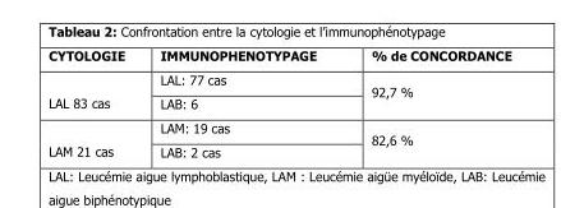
<table><thead><tr><td>CYTOLOGIE</td><td>IMMUNOPHENOTYPAGE</td><td>% de CONCORDANCE</td></tr></thead><tbody><tr><td rowspan="2">LAL 83 cas</td><td>LAL: 77 cas</td><td rowspan="2">92,7 %</td></tr><tr><td>LAB: 6</td></tr><tr><td rowspan="2">LAM 21 cas</td><td>LAM: 19 cas</td><td rowspan="2">82,6 %</td></tr><tr><td>LAB: 2 cas</td></tr></tbody></table>